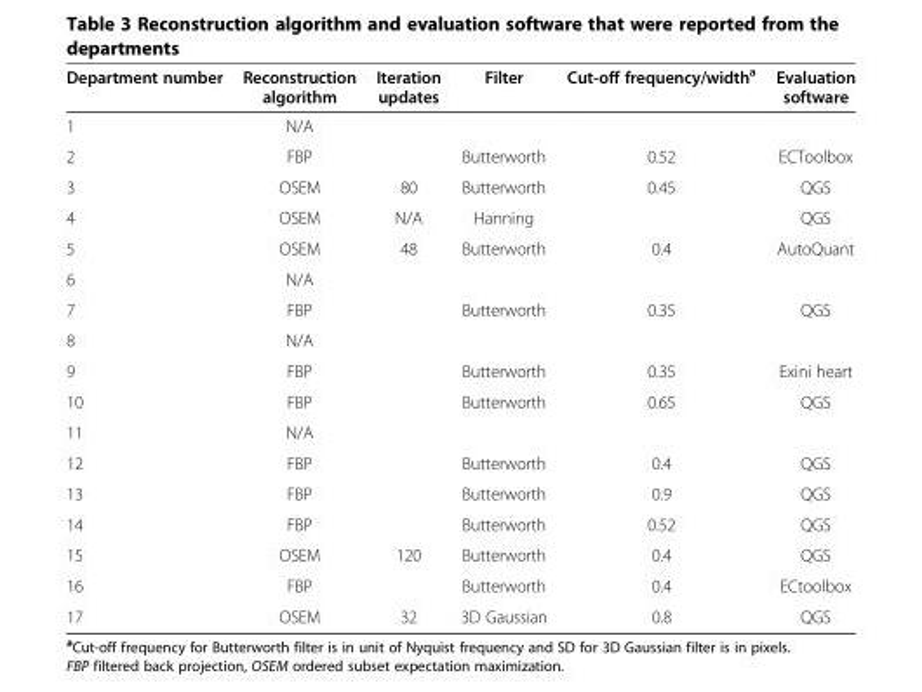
<table><thead><tr><td>Department number</td><td>Reconstruction algorithm</td><td>Iteration updates</td><td>Filter</td><td>Cut-off frequency/width<sup>a</sup></td><td>Evaluation software</td></tr></thead><tbody><tr><td>1</td><td>N/A</td><td></td><td></td><td></td><td></td></tr><tr><td>2</td><td>FBP</td><td></td><td>Butterworth</td><td>0.52</td><td>ECToolbox</td></tr><tr><td>3</td><td>OSEM</td><td>80</td><td>Butterworth</td><td>0.45</td><td>QGS</td></tr><tr><td>4</td><td>OSEM</td><td>N/A</td><td>Hanning</td><td></td><td>QGS</td></tr><tr><td>5</td><td>OSEM</td><td>48</td><td>Butterworth</td><td>0.4</td><td>AutoQuant</td></tr><tr><td>6</td><td>N/A</td><td></td><td></td><td></td><td></td></tr><tr><td>7</td><td>FBP</td><td></td><td>Butterworth</td><td>0.35</td><td>QGS</td></tr><tr><td>8</td><td>N/A</td><td></td><td></td><td></td><td></td></tr><tr><td>9</td><td>FBP</td><td></td><td>Butterworth</td><td>0.35</td><td>Exini heart</td></tr><tr><td>10</td><td>FBP</td><td></td><td>Butterworth</td><td>0.65</td><td>QGS</td></tr><tr><td>11</td><td>N/A</td><td></td><td></td><td></td><td></td></tr><tr><td>12</td><td>FBP</td><td></td><td>Butterworth</td><td>0.4</td><td>QGS</td></tr><tr><td>13</td><td>FBP</td><td></td><td>Butterworth</td><td>0.9</td><td>QGS</td></tr><tr><td>14</td><td>FBP</td><td></td><td>Butterworth</td><td>0.52</td><td>QGS</td></tr><tr><td>15</td><td>OSEM</td><td>120</td><td>Butterworth</td><td>0.4</td><td>QGS</td></tr><tr><td>16</td><td>FBP</td><td></td><td>Butterworth</td><td>0.4</td><td>ECtoolbox</td></tr><tr><td>17</td><td>OSEM</td><td>32</td><td>3D Gaussian</td><td>0.8</td><td>QGS</td></tr></tbody></table>